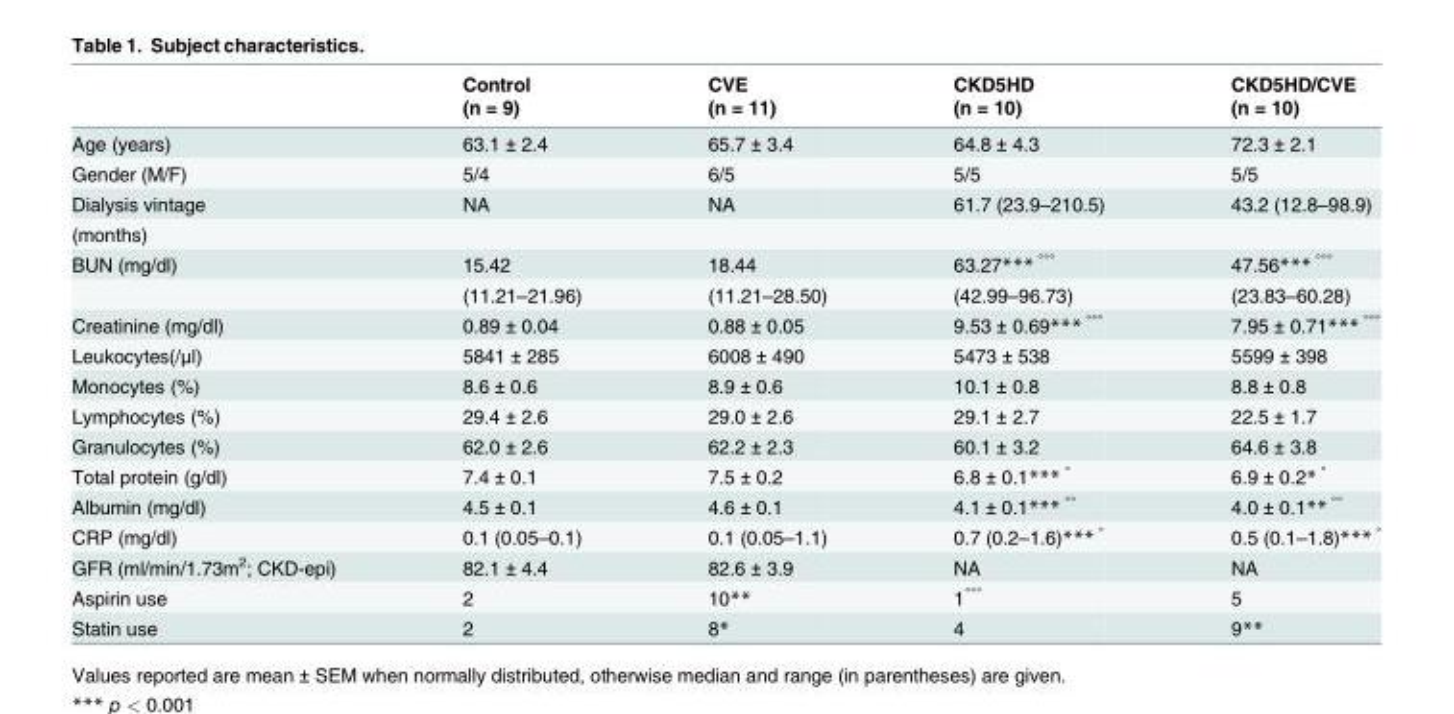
<table><thead><tr><td rowspan="2"></td><td rowspan="2">Control (n = 9)</td><td rowspan="2">CVE (n = 11)</td><td rowspan="2">CKD5HD (n = 10)</td><td rowspan="2">CKD5HD/CVE (n = 10)</td></tr><tr></tr></thead><tbody><tr><td>Age (years)</td><td>63.1 ± 2.4</td><td>65.7 ± 3.4</td><td>64.8 ± 4.3</td><td>72.3 ± 2.1</td></tr><tr><td>Gender (M/F)</td><td>5/4</td><td>6/5</td><td>5/5</td><td>5/5</td></tr><tr><td>Dialysis vintage</td><td>NA</td><td>NA</td><td>61.7 (23.9–210.5)</td><td>43.2 (12.8–98.9)</td></tr><tr><td colspan="5">(months)</td></tr><tr><td rowspan="2">BUN (mg/dl)</td><td>15.42</td><td>18.44</td><td>63.27***<sup>Ɩ°°°</sup></td><td>47.56***<sup>Ɩ°°°</sup></td></tr><tr><td>(11.21–21.96)</td><td>(11.21–28.50)</td><td>(42.99–96.73)</td><td>(23.83–60.28)</td></tr><tr><td>Creatinine (mg/dl)</td><td>0.89 ± 0.04</td><td>0.88 ± 0.05</td><td>9.53 ± 0.69***<sup>Ɩ°°°</sup></td><td>7.95 ± 0.71***<sup>Ɩ°°°</sup></td></tr><tr><td>Leukocytes(/μl)</td><td>5841 ± 285</td><td>6008 ± 490</td><td>5473 ± 538</td><td>5599 ± 398</td></tr><tr><td>Monocytes (%)</td><td>8.6 ± 0.6</td><td>8.9 ± 0.6</td><td>10.1 ± 0.8</td><td>8.8 ± 0.8</td></tr><tr><td>Lymphocytes (%)</td><td>29.4 ± 2.6</td><td>29.0 ± 2.6</td><td>29.1 ± 2.7</td><td>22.5 ± 1.7</td></tr><tr><td>Granulocytes (%)</td><td>62.0 ± 2.6</td><td>62.2 ± 2.3</td><td>60.1 ± 3.2</td><td>64.6 ± 3.8</td></tr><tr><td>Total protein (g/dl)</td><td>7.4 ± 0.1</td><td>7.5 ± 0.2</td><td>6.8 ± 0.1***<sup>Ɩ°</sup></td><td>6.9 ± 0.2*<sup>Ɩ°</sup></td></tr><tr><td>Albumin (mg/dl)</td><td>4.5 ± 0.1</td><td>4.6 ± 0.1</td><td>4.1 ± 0.1***<sup>Ɩ°°</sup></td><td>4.0 ± 0.1**<sup>Ɩ°°</sup></td></tr><tr><td>CRP (mg/dl)</td><td>0.1 (0.05–0.1)</td><td>0.1 (0.05–1.1)</td><td>0.7 (0.2–1.6)***<sup>Ɩ°</sup></td><td>0.5 (0.1–1.8)***<sup>Ɩ°</sup></td></tr><tr><td>GFR (ml/min/1.73m<sup>2</sup>; CKD-epi)</td><td>82.1 ± 4.4</td><td>82.6 ± 3.9</td><td>NA</td><td>NA</td></tr><tr><td>Aspirin use</td><td>2</td><td>10**</td><td>1<sup>°°°</sup></td><td>5</td></tr><tr><td>Statin use</td><td>2</td><td>8*</td><td>4</td><td>9**</td></tr></tbody></table>